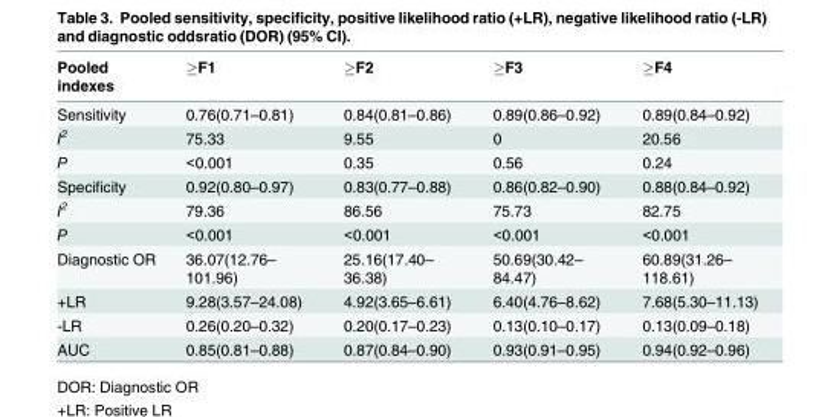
<table><thead><tr><td>Pooled indexes</td><td>≥F1</td><td>≥F2</td><td>≥F3</td><td>≥F4</td></tr></thead><tbody><tr><td>Sensitivity</td><td>0.76(0.71–0.81)</td><td>0.84(0.81–0.86)</td><td>0.89(0.86–0.92)</td><td>0.89(0.84–0.92)</td></tr><tr><td>I<sup>2</sup></td><td>75.33</td><td>9.55</td><td>0</td><td>20.56</td></tr><tr><td>P</td><td>&lt;0.001</td><td>0.35</td><td>0.56</td><td>0.24</td></tr><tr><td>Specificity</td><td>0.92(0.80–0.97)</td><td>0.83(0.77–0.88)</td><td>0.86(0.82–0.90)</td><td>0.88(0.84–0.92)</td></tr><tr><td>I<sup>2</sup></td><td>79.36</td><td>86.56</td><td>75.73</td><td>82.75</td></tr><tr><td>P</td><td>&lt;0.001</td><td>&lt;0.001</td><td>&lt;0.001</td><td>&lt;0.001</td></tr><tr><td>Diagnostic OR</td><td>36.07(12.76– 101.96)</td><td>25.16(17.40– 36.38)</td><td>50.69(30.42– 84.47)</td><td>60.89(31.26– 118.61)</td></tr><tr><td>+LR</td><td>9.28(3.57–24.08)</td><td>4.92(3.65–6.61)</td><td>6.40(4.76–8.62)</td><td>7.68(5.30–11.13)</td></tr><tr><td>-LR</td><td>0.26(0.20–0.32)</td><td>0.20(0.17–0.23)</td><td>0.13(0.10–0.17)</td><td>0.13(0.09–0.18)</td></tr><tr><td>AUC</td><td>0.85(0.81–0.88)</td><td>0.87(0.84–0.90)</td><td>0.93(0.91–0.95)</td><td>0.94(0.92–0.96)</td></tr></tbody></table>